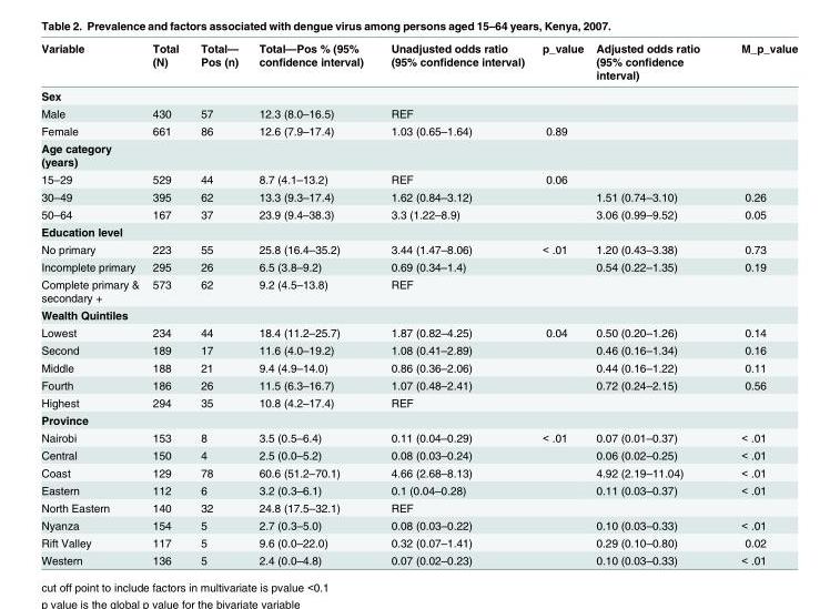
<table><thead><tr><td>Variable</td><td>Total (N)</td><td>Total— Pos (n)</td><td>Total—Pos % (95% confidence interval)</td><td>Unadjusted odds ratio (95% confidence interval)</td><td>p_value</td><td>Adjusted odds ratio (95% confidence interval)</td><td>M_p_value</td></tr></thead><tbody><tr><td colspan="8">Sex</td></tr><tr><td>Male</td><td>430</td><td>57</td><td>12.3 (8.0–16.5)</td><td>REF</td><td></td><td></td><td></td></tr><tr><td>Female</td><td>661</td><td>86</td><td>12.6 (7.9–17.4)</td><td>1.03 (0.65–1.64)</td><td>0.89</td><td></td><td></td></tr><tr><td colspan="8">Age category (years)</td></tr><tr><td>15–29</td><td>529</td><td>44</td><td>8.7 (4.1–13.2)</td><td>REF</td><td>0.06</td><td></td><td></td></tr><tr><td>30–49</td><td>395</td><td>62</td><td>13.3 (9.3–17.4)</td><td>1.62 (0.84–3.12)</td><td></td><td>1.51 (0.74–3.10)</td><td>0.26</td></tr><tr><td>50–64</td><td>167</td><td>37</td><td>23.9 (9.4–38.3)</td><td>3.3 (1.22–8.9)</td><td></td><td>3.06 (0.99–9.52)</td><td>0.05</td></tr><tr><td colspan="8">Education level</td></tr><tr><td>No primary</td><td>223</td><td>55</td><td>25.8 (16.4–35.2)</td><td>3.44 (1.47–8.06)</td><td>&lt; .01</td><td>1.20 (0.43–3.38)</td><td>0.73</td></tr><tr><td>Incomplete primary</td><td>295</td><td>26</td><td>6.5 (3.8–9.2)</td><td>0.69 (0.34–1.4)</td><td></td><td>0.54 (0.22–1.35)</td><td>0.19</td></tr><tr><td>Complete primary &amp; secondary +</td><td>573</td><td>62</td><td>9.2 (4.5–13.8)</td><td>REF</td><td></td><td></td><td></td></tr><tr><td colspan="8">Wealth Quintiles</td></tr><tr><td>Lowest</td><td>234</td><td>44</td><td>18.4 (11.2–25.7)</td><td>1.87 (0.82–4.25)</td><td>0.04</td><td>0.50 (0.20–1.26)</td><td>0.14</td></tr><tr><td>Second</td><td>189</td><td>17</td><td>11.6 (4.0–19.2)</td><td>1.08 (0.41–2.89)</td><td></td><td>0.46 (0.16–1.34)</td><td>0.16</td></tr><tr><td>Middle</td><td>188</td><td>21</td><td>9.4 (4.9–14.0)</td><td>0.86 (0.36–2.06)</td><td></td><td>0.44 (0.16–1.22)</td><td>0.11</td></tr><tr><td>Fourth</td><td>186</td><td>26</td><td>11.5 (6.3–16.7)</td><td>1.07 (0.48–2.41)</td><td></td><td>0.72 (0.24–2.15)</td><td>0.56</td></tr><tr><td>Highest</td><td>294</td><td>35</td><td>10.8 (4.2–17.4)</td><td>REF</td><td></td><td></td><td></td></tr><tr><td colspan="8">Province</td></tr><tr><td>Nairobi</td><td>153</td><td>8</td><td>3.5 (0.5–6.4)</td><td>0.11 (0.04–0.29)</td><td>&lt; .01</td><td>0.07 (0.01–0.37)</td><td>&lt; .01</td></tr><tr><td>Central</td><td>150</td><td>4</td><td>2.5 (0.0–5.2)</td><td>0.08 (0.03–0.24)</td><td></td><td>0.06 (0.02–0.25)</td><td>&lt; .01</td></tr><tr><td>Coast</td><td>129</td><td>78</td><td>60.6 (51.2–70.1)</td><td>4.66 (2.68–8.13)</td><td></td><td>4.92 (2.19–11.04)</td><td>&lt; .01</td></tr><tr><td>Eastern</td><td>112</td><td>6</td><td>3.2 (0.3–6.1)</td><td>0.1 (0.04–0.28)</td><td></td><td>0.11 (0.03–0.37)</td><td>&lt; .01</td></tr><tr><td>North Eastern</td><td>140</td><td>32</td><td>24.8 (17.5–32.1)</td><td>REF</td><td></td><td></td><td></td></tr><tr><td>Nyanza</td><td>154</td><td>5</td><td>2.7 (0.3–5.0)</td><td>0.08 (0.03–0.22)</td><td></td><td>0.10 (0.03–0.33)</td><td>&lt; .01</td></tr><tr><td>Rift Valley</td><td>117</td><td>5</td><td>9.6 (0.0–22.0)</td><td>0.32 (0.07–1.41)</td><td></td><td>0.29 (0.10–0.80)</td><td>0.02</td></tr><tr><td>Western</td><td>136</td><td>5</td><td>2.4 (0.0–4.8)</td><td>0.07 (0.02–0.23)</td><td></td><td>0.10 (0.03–0.33)</td><td>&lt; .01</td></tr></tbody></table>